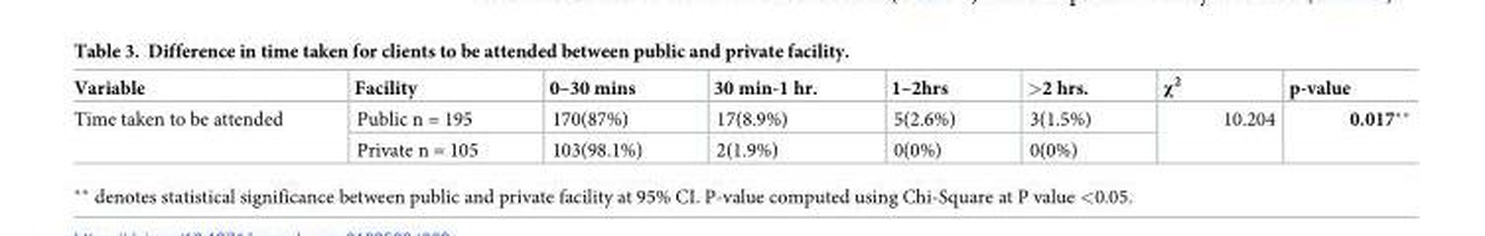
<table><thead><tr><td>Variable</td><td>Facility</td><td>0–30 mins</td><td>30 min-1 hr.</td><td>1–2hrs</td><td>&gt;2 hrs.</td><td>χ<sup>2</sup></td><td>p-value</td></tr></thead><tbody><tr><td rowspan="2">Time taken to be attended</td><td>Public n = 195</td><td>170(87%)</td><td>17(8.9%)</td><td>5(2.6%)</td><td>3(1.5%)</td><td rowspan="2">10.204</td><td rowspan="2">0.017**</td></tr><tr><td>Private n = 105</td><td>103(98.1%)</td><td>2(1.9%)</td><td>0(0%)</td><td>0(0%)</td></tr></tbody></table>